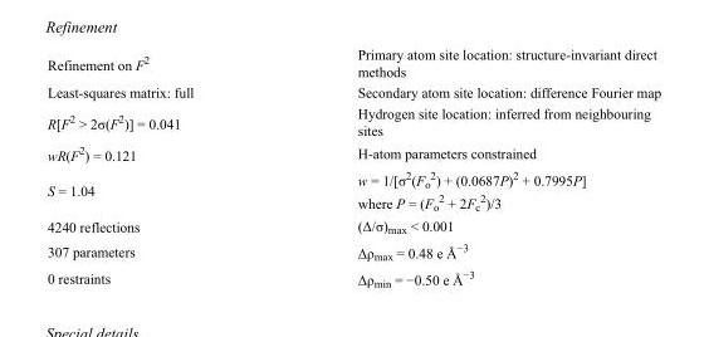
<table><tbody><tr><td>Refinement on F<sup>2</sup></td><td>Primary atom site location: structure-invariant direct methods</td></tr><tr><td>Least-squares matrix: full</td><td>Secondary atom site location: difference Fourier map</td></tr><tr><td>R[F<sup>2</sup> &gt; 2σ(F<sup>2</sup>)] = 0.041</td><td>Hydrogen site location: inferred from neighbouring sites</td></tr><tr><td>wR(F<sup>2</sup>) = 0.121</td><td>H-atom parameters constrained</td></tr><tr><td>S = 1.04</td><td>w = 1/[σ<sup>2</sup>(F<sub>o</sub> <sup>2</sup>) + (0.0687P)<sup>2</sup> + 0.7995P] where P = (F<sub>o</sub> <sup>2</sup> + 2F<sub>c</sub> <sup>2</sup>)/3</td></tr><tr><td>4240 reflections</td><td>(Δ/σ)<sub>max</sub> &lt; 0.001</td></tr><tr><td>307 parameters</td><td>Δρ<sub>max</sub> = 0.48 e Å<sup>−3</sup></td></tr><tr><td>0 restraints</td><td>Δρ<sub>min</sub> = −0.50 e Å<sup>−3</sup></td></tr></tbody></table>